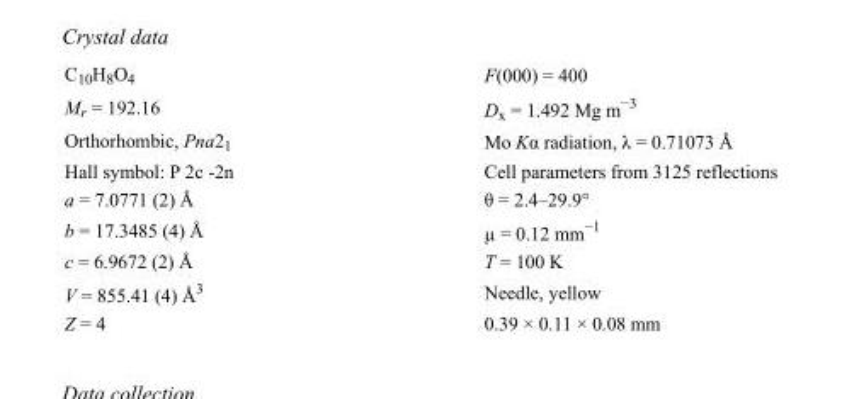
<table><tbody><tr><td>C<sub>10</sub>H<sub>8</sub>O<sub>4</sub></td><td>F(000) = 400</td></tr><tr><td>M<sub>r</sub> = 192.16</td><td>D<sub>x</sub> = 1.492 Mg m<sup>−3</sup></td></tr><tr><td>Orthorhombic, Pna2<sub>1</sub></td><td>Mo Kα radiation, λ = 0.71073 Å</td></tr><tr><td>Hall symbol: P 2c -2n</td><td>Cell parameters from 3125 reflections</td></tr><tr><td>a = 7.0771 (2) Å</td><td>θ = 2.4–29.9°</td></tr><tr><td>b = 17.3485 (4) Å</td><td>µ = 0.12 mm<sup>−1</sup></td></tr><tr><td>c = 6.9672 (2) Å</td><td>T = 100 K</td></tr><tr><td>V = 855.41 (4) Å<sup>3</sup></td><td>Needle, yellow</td></tr><tr><td>Z = 4</td><td>0.39 × 0.11 × 0.08 mm</td></tr></tbody></table>